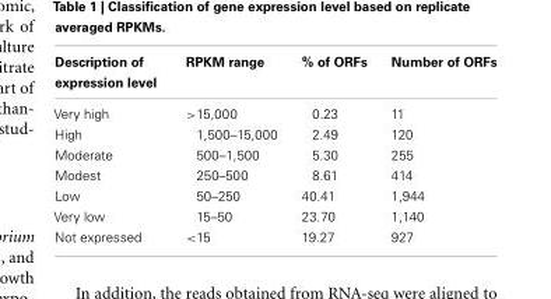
<table><thead><tr><td>Description of expression level</td><td>RPKM range</td><td>% of ORFs</td><td>Number of ORFs</td></tr></thead><tbody><tr><td>Very high</td><td>&gt;15,000</td><td>0.23</td><td>11</td></tr><tr><td>High</td><td>1,500–15,000</td><td>2.49</td><td>120</td></tr><tr><td>Moderate</td><td>500–1,500</td><td>5.30</td><td>255</td></tr><tr><td>Modest</td><td>250–500</td><td>8.61</td><td>414</td></tr><tr><td>Low</td><td>50–250</td><td>40.41</td><td>1,944</td></tr><tr><td>Very low</td><td>15–50</td><td>23.70</td><td>1,140</td></tr><tr><td>Not expressed</td><td>&lt;15</td><td>19.27</td><td>927</td></tr></tbody></table>